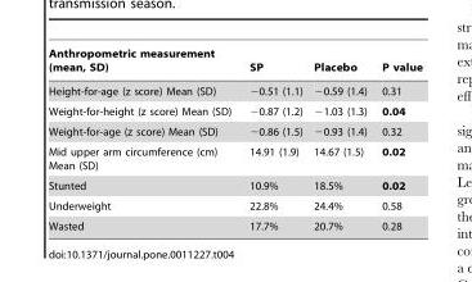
<table><thead><tr><td>Anthropometric measurement (mean, SD)</td><td>SP</td><td>Placebo</td><td>P value</td></tr></thead><tbody><tr><td>Height-for-age (z score) Mean (SD)</td><td>−0.51 (1.1)</td><td>−0.59 (1.4)</td><td>0.31</td></tr><tr><td>Weight-for-height (z score) Mean (SD)</td><td>−0.87 (1.2)</td><td>−1.03 (1.3)</td><td>0.04</td></tr><tr><td>Weight-for-age (z score) Mean (SD)</td><td>−0.86 (1.5)</td><td>−0.93 (1.4)</td><td>0.32</td></tr><tr><td>Mid upper arm circumference (cm) Mean (SD)</td><td>14.91 (1.9)</td><td>14.67 (1.5)</td><td>0.02</td></tr><tr><td>Stunted</td><td>10.9%</td><td>18.5%</td><td>0.02</td></tr><tr><td>Underweight</td><td>22.8%</td><td>24.4%</td><td>0.58</td></tr><tr><td>Wasted</td><td>17.7%</td><td>20.7%</td><td>0.28</td></tr></tbody></table>